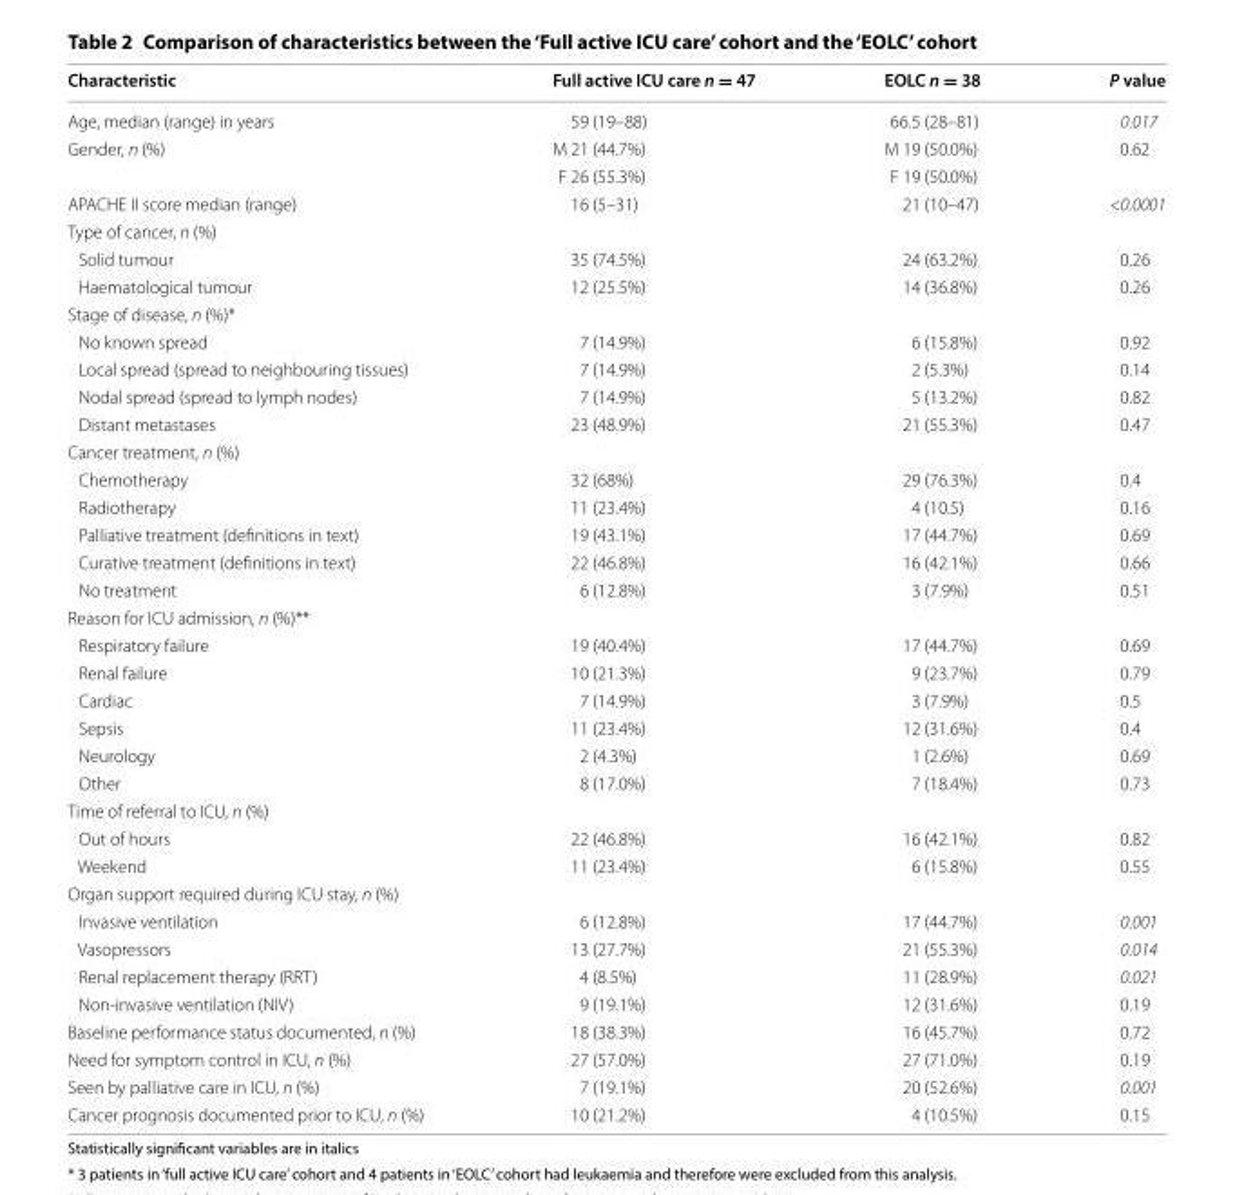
<table><thead><tr><td>Characteristic</td><td>Full active ICU care n = 47</td><td>EOLC n = 38</td><td>P value</td></tr></thead><tbody><tr><td>Age, median (range) in years</td><td>59 (19–88)</td><td>66.5 (28–81)</td><td>0.017</td></tr><tr><td rowspan="2">Gender, n (%)</td><td>M 21 (44.7%)</td><td>M 19 (50.0%)</td><td rowspan="2">0.62</td></tr><tr><td>F 26 (55.3%)</td><td>F 19 (50.0%)</td></tr><tr><td>APACHE II score median (range)</td><td>16 (5–31)</td><td>21 (10–47)</td><td>&lt;0.0001</td></tr><tr><td colspan="4">Type of cancer, n (%)</td></tr><tr><td>Solid tumour</td><td>35 (74.5%)</td><td>24 (63.2%)</td><td>0.26</td></tr><tr><td>Haematological tumour</td><td>12 (25.5%)</td><td>14 (36.8%)</td><td>0.26</td></tr><tr><td colspan="4">Stage of disease, n (%)*</td></tr><tr><td>No known spread</td><td>7 (14.9%)</td><td>6 (15.8%)</td><td>0.92</td></tr><tr><td>Local spread (spread to neighbouring tissues)</td><td>7 (14.9%)</td><td>2 (5.3%)</td><td>0.14</td></tr><tr><td>Nodal spread (spread to lymph nodes)</td><td>7 (14.9%)</td><td>5 (13.2%)</td><td>0.82</td></tr><tr><td>Distant metastases</td><td>23 (48.9%)</td><td>21 (55.3%)</td><td>0.47</td></tr><tr><td colspan="4">Cancer treatment, n (%)</td></tr><tr><td>Chemotherapy</td><td>32 (68%)</td><td>29 (76.3%)</td><td>0.4</td></tr><tr><td>Radiotherapy</td><td>11 (23.4%)</td><td>4 (10.5)</td><td>0.16</td></tr><tr><td>Palliative treatment (definitions in text)</td><td>19 (43.1%)</td><td>17 (44.7%)</td><td>0.69</td></tr><tr><td>Curative treatment (definitions in text)</td><td>22 (46.8%)</td><td>16 (42.1%)</td><td>0.66</td></tr><tr><td>No treatment</td><td>6 (12.8%)</td><td>3 (7.9%)</td><td>0.51</td></tr><tr><td colspan="4">Reason for ICU admission, n (%)**</td></tr><tr><td>Respiratory failure</td><td>19 (40.4%)</td><td>17 (44.7%)</td><td>0.69</td></tr><tr><td>Renal failure</td><td>10 (21.3%)</td><td>9 (23.7%)</td><td>0.79</td></tr><tr><td>Cardiac</td><td>7 (14.9%)</td><td>3 (7.9%)</td><td>0.5</td></tr><tr><td>Sepsis</td><td>11 (23.4%)</td><td>12 (31.6%)</td><td>0.4</td></tr><tr><td>Neurology</td><td>2 (4.3%)</td><td>1 (2.6%)</td><td>0.69</td></tr><tr><td>Other</td><td>8 (17.0%)</td><td>7 (18.4%)</td><td>0.73</td></tr><tr><td colspan="4">Time of referral to ICU, n (%)</td></tr><tr><td>Out of hours</td><td>22 (46.8%)</td><td>16 (42.1%)</td><td>0.82</td></tr><tr><td>Weekend</td><td>11 (23.4%)</td><td>6 (15.8%)</td><td>0.55</td></tr><tr><td colspan="4">Organ support required during ICU stay, n (%)</td></tr><tr><td>Invasive ventilation</td><td>6 (12.8%)</td><td>17 (44.7%)</td><td>0.001</td></tr><tr><td>Vasopressors</td><td>13 (27.7%)</td><td>21 (55.3%)</td><td>0.014</td></tr><tr><td>Renal replacement therapy (RRT)</td><td>4 (8.5%)</td><td>11 (28.9%)</td><td>0.021</td></tr><tr><td>Non‑invasive ventilation (NIV)</td><td>9 (19.1%)</td><td>12 (31.6%)</td><td>0.19</td></tr><tr><td>Baseline performance status documented, n (%)</td><td>18 (38.3%)</td><td>16 (45.7%)</td><td>0.72</td></tr><tr><td>Need for symptom control in ICU, n (%)</td><td>27 (57.0%)</td><td>27 (71.0%)</td><td>0.19</td></tr><tr><td>Seen by palliative care in ICU, n (%)</td><td>7 (19.1%)</td><td>20 (52.6%)</td><td>0.001</td></tr><tr><td>Cancer prognosis documented prior to ICU, n (%)</td><td>10 (21.2%)</td><td>4 (10.5%)</td><td>0.15</td></tr></tbody></table>